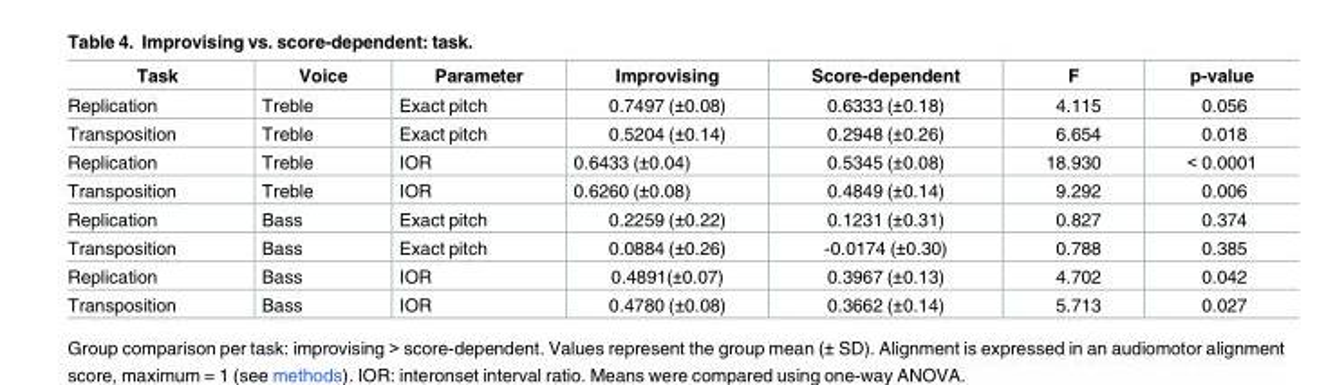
<table><thead><tr><td>Task</td><td>Voice</td><td>Parameter</td><td>Improvising</td><td>Score-dependent</td><td>F</td><td>p-value</td></tr></thead><tbody><tr><td>Replication</td><td>Treble</td><td>Exact pitch</td><td>0.7497 (±0.08)</td><td>0.6333 (±0.18)</td><td>4.115</td><td>0.056</td></tr><tr><td>Transposition</td><td>Treble</td><td>Exact pitch</td><td>0.5204 (±0.14)</td><td>0.2948 (±0.26)</td><td>6.654</td><td>0.018</td></tr><tr><td>Replication</td><td>Treble</td><td>IOR</td><td>0.6433 (±0.04)</td><td>0.5345 (±0.08)</td><td>18.930</td><td>&lt; 0.0001</td></tr><tr><td>Transposition</td><td>Treble</td><td>IOR</td><td>0.6260 (±0.08)</td><td>0.4849 (±0.14)</td><td>9.292</td><td>0.006</td></tr><tr><td>Replication</td><td>Bass</td><td>Exact pitch</td><td>0.2259 (±0.22)</td><td>0.1231 (±0.31)</td><td>0.827</td><td>0.374</td></tr><tr><td>Transposition</td><td>Bass</td><td>Exact pitch</td><td>0.0884 (±0.26)</td><td>-0.0174 (±0.30)</td><td>0.788</td><td>0.385</td></tr><tr><td>Replication</td><td>Bass</td><td>IOR</td><td>0.4891(±0.07)</td><td>0.3967 (±0.13)</td><td>4.702</td><td>0.042</td></tr><tr><td>Transposition</td><td>Bass</td><td>IOR</td><td>0.4780 (±0.08)</td><td>0.3662 (±0.14)</td><td>5.713</td><td>0.027</td></tr></tbody></table>